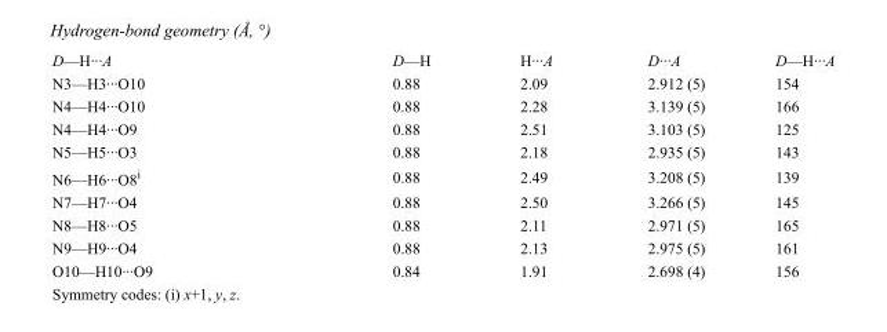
<table><tbody><tr><td>D—H···A</td><td>D—H</td><td>H···A</td><td>D···A</td><td>D—H···A</td></tr><tr><td>N3—H3···O10</td><td>0.88</td><td>2.09</td><td>2.912 (5)</td><td>154</td></tr><tr><td>N4—H4···O10</td><td>0.88</td><td>2.28</td><td>3.139 (5)</td><td>166</td></tr><tr><td>N4—H4···O9</td><td>0.88</td><td>2.51</td><td>3.103 (5)</td><td>125</td></tr><tr><td>N5—H5···O3</td><td>0.88</td><td>2.18</td><td>2.935 (5)</td><td>143</td></tr><tr><td>N6—H6···O8<sup>i</sup></td><td>0.88</td><td>2.49</td><td>3.208 (5)</td><td>139</td></tr><tr><td>N7—H7···O4</td><td>0.88</td><td>2.50</td><td>3.266 (5)</td><td>145</td></tr><tr><td>N8—H8···O5</td><td>0.88</td><td>2.11</td><td>2.971 (5)</td><td>165</td></tr><tr><td>N9—H9···O4</td><td>0.88</td><td>2.13</td><td>2.975 (5)</td><td>161</td></tr><tr><td>O10—H10···O9</td><td>0.84</td><td>1.91</td><td>2.698 (4)</td><td>156</td></tr></tbody></table>